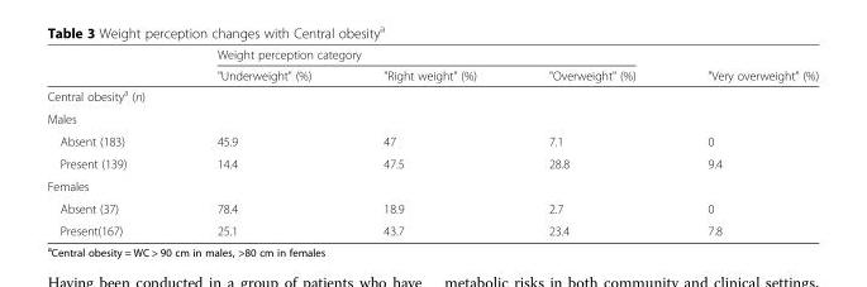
<table><thead><tr><td rowspan="2"></td><td colspan="3">Weight perception category</td><td rowspan="2">&quot;Very overweight&quot; (%)</td></tr><tr><td>&quot;Underweight&quot; (%)</td><td>&quot;Right weight&quot; (%)</td><td>&quot;Overweight&quot; (%)</td></tr></thead><tbody><tr><td colspan="5">Central obesity<sup>a</sup> (n)</td></tr><tr><td colspan="5">Males</td></tr><tr><td>Absent (183)</td><td>45.9</td><td>47</td><td>7.1</td><td>0</td></tr><tr><td>Present (139)</td><td>14.4</td><td>47.5</td><td>28.8</td><td>9.4</td></tr><tr><td colspan="5">Females</td></tr><tr><td>Absent (37)</td><td>78.4</td><td>18.9</td><td>2.7</td><td>0</td></tr><tr><td>Present(167)</td><td>25.1</td><td>43.7</td><td>23.4</td><td>7.8</td></tr></tbody></table>